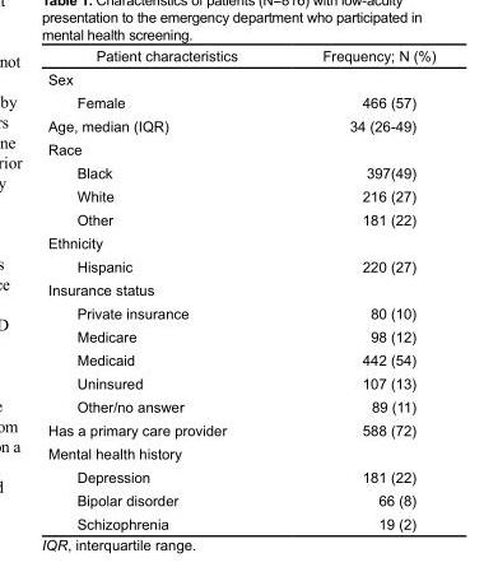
<table><thead><tr><td>Patient characteristics</td><td>Frequency; N (%)</td></tr></thead><tbody><tr><td colspan="2">Sex</td></tr><tr><td>Female</td><td>466 (57)</td></tr><tr><td>Age, median (IQR)</td><td>34 (26-49)</td></tr><tr><td colspan="2">Race</td></tr><tr><td>Black</td><td>397(49)</td></tr><tr><td>White</td><td>216 (27)</td></tr><tr><td>Other</td><td>181 (22)</td></tr><tr><td colspan="2">Ethnicity</td></tr><tr><td>Hispanic</td><td>220 (27)</td></tr><tr><td colspan="2">Insurance status</td></tr><tr><td>Private insurance</td><td>80 (10)</td></tr><tr><td>Medicare</td><td>98 (12)</td></tr><tr><td>Medicaid</td><td>442 (54)</td></tr><tr><td>Uninsured</td><td>107 (13)</td></tr><tr><td>Other/no answer</td><td>89 (11)</td></tr><tr><td>Has a primary care provider</td><td>588 (72)</td></tr><tr><td colspan="2">Mental health history</td></tr><tr><td>Depression</td><td>181 (22)</td></tr><tr><td>Bipolar disorder</td><td>66 (8)</td></tr><tr><td>Schizophrenia</td><td>19 (2)</td></tr></tbody></table>